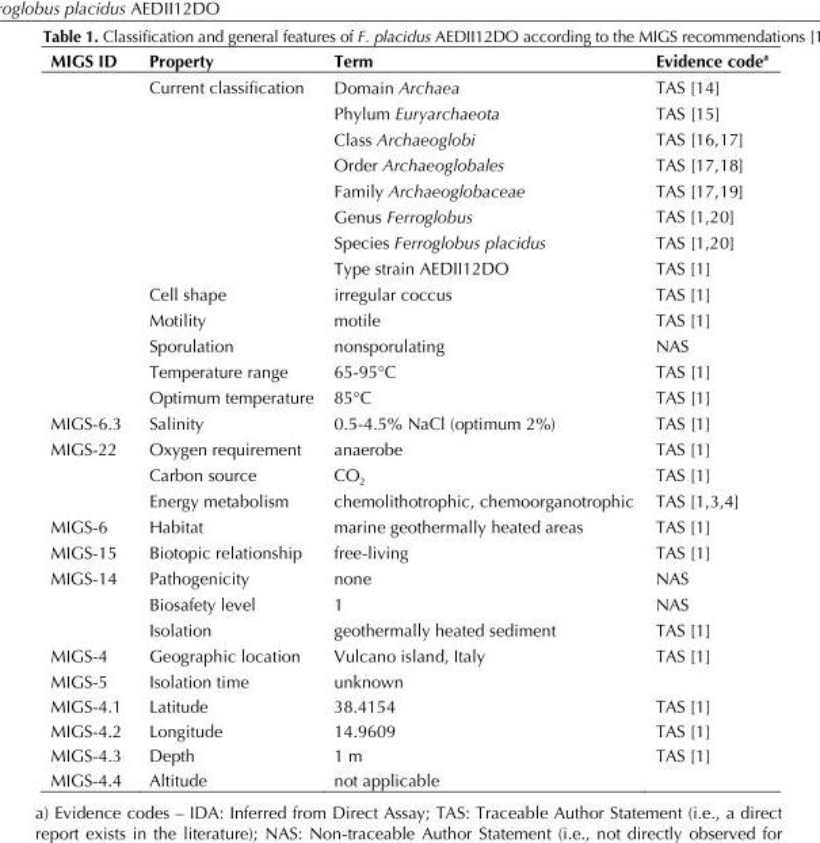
<table><thead><tr><td>MIGS ID</td><td>Property</td><td>Term</td><td>Evidence code<sup>a</sup></td></tr></thead><tbody><tr><td></td><td>Current classification</td><td>Domain Archaea</td><td>TAS [14]</td></tr><tr><td></td><td></td><td>Phylum Euryarchaeota</td><td>TAS [15]</td></tr><tr><td></td><td></td><td>Class Archaeoglobi</td><td>TAS [16,17]</td></tr><tr><td></td><td></td><td>Order Archaeoglobales</td><td>TAS [17,18]</td></tr><tr><td></td><td></td><td>Family Archaeoglobaceae</td><td>TAS [17,19]</td></tr><tr><td></td><td></td><td>Genus Ferroglobus</td><td>TAS [1,20]</td></tr><tr><td></td><td></td><td>Species Ferroglobus placidus</td><td>TAS [1,20]</td></tr><tr><td></td><td></td><td>Type strain AEDII12DO</td><td>TAS [1]</td></tr><tr><td></td><td>Cell shape</td><td>irregular coccus</td><td>TAS [1]</td></tr><tr><td></td><td>Motility</td><td>motile</td><td>TAS [1]</td></tr><tr><td></td><td>Sporulation</td><td>nonsporulating</td><td>NAS</td></tr><tr><td></td><td>Temperature range</td><td>65-95°C</td><td>TAS [1]</td></tr><tr><td></td><td>Optimum temperature</td><td>85°C</td><td>TAS [1]</td></tr><tr><td>MIGS-6.3</td><td>Salinity</td><td>0.5-4.5% NaCl (optimum 2%)</td><td>TAS [1]</td></tr><tr><td rowspan="3">MIGS-22</td><td>Oxygen requirement</td><td>anaerobe</td><td>TAS [1]</td></tr><tr><td>Carbon source</td><td>CO<sub>2</sub></td><td>TAS [1]</td></tr><tr><td>Energy metabolism</td><td>chemolithotrophic, chemoorganotrophic</td><td>TAS [1,3,4]</td></tr><tr><td>MIGS-6</td><td>Habitat</td><td>marine geothermally heated areas</td><td>TAS [1]</td></tr><tr><td>MIGS-15</td><td>Biotopic relationship</td><td>free-living</td><td>TAS [1]</td></tr><tr><td rowspan="3">MIGS-14</td><td>Pathogenicity</td><td>none</td><td>NAS</td></tr><tr><td>Biosafety level</td><td>1</td><td>NAS</td></tr><tr><td>Isolation</td><td>geothermally heated sediment</td><td>TAS [1]</td></tr><tr><td>MIGS-4</td><td>Geographic location</td><td>Vulcano island, Italy</td><td>TAS [1]</td></tr><tr><td>MIGS-5</td><td>Isolation time</td><td>unknown</td><td></td></tr><tr><td>MIGS-4.1 MIGS-4.2</td><td>Latitude Longitude</td><td>38.4154 14.9609</td><td>TAS [1] TAS [1]</td></tr><tr><td>MIGS-4.3</td><td>Depth</td><td>1 m</td><td>TAS [1]</td></tr><tr><td>MIGS-4.4</td><td>Altitude</td><td>not applicable</td><td></td></tr></tbody></table>